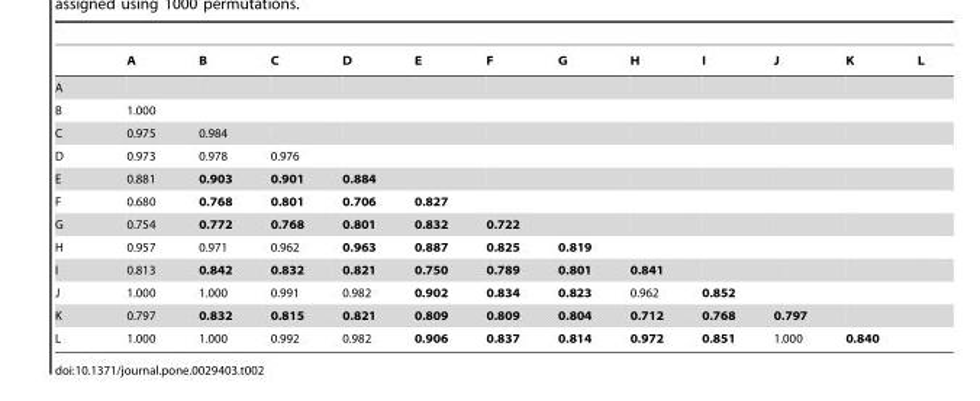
<table><thead><tr><td></td><td>A</td><td>B</td><td>C</td><td>D</td><td>E</td><td>F</td><td>G</td><td>H</td><td>I</td><td>J</td><td>K</td><td>L</td></tr></thead><tbody><tr><td colspan="13">A</td></tr><tr><td>B</td><td>1.000</td><td></td><td></td><td></td><td></td><td></td><td></td><td></td><td></td><td></td><td></td><td></td></tr><tr><td>C</td><td>0.975</td><td>0.984</td><td></td><td></td><td></td><td></td><td></td><td></td><td></td><td></td><td></td><td></td></tr><tr><td>D</td><td>0.973</td><td>0.978</td><td>0.976</td><td></td><td></td><td></td><td></td><td></td><td></td><td></td><td></td><td></td></tr><tr><td>E</td><td>0.881</td><td>0.903</td><td>0.901</td><td>0.884</td><td></td><td></td><td></td><td></td><td></td><td></td><td></td><td></td></tr><tr><td>F</td><td>0.680</td><td>0.768</td><td>0.801</td><td>0.706</td><td>0.827</td><td></td><td></td><td></td><td></td><td></td><td></td><td></td></tr><tr><td>G</td><td>0.754</td><td>0.772</td><td>0.768</td><td>0.801</td><td>0.832</td><td>0.722</td><td></td><td></td><td></td><td></td><td></td><td></td></tr><tr><td>H</td><td>0.957</td><td>0.971</td><td>0.962</td><td>0.963</td><td>0.887</td><td>0.825</td><td>0.819</td><td></td><td></td><td></td><td></td><td></td></tr><tr><td>I</td><td>0.813</td><td>0.842</td><td>0.832</td><td>0.821</td><td>0.750</td><td>0.789</td><td>0.801</td><td>0.841</td><td></td><td></td><td></td><td></td></tr><tr><td>J</td><td>1.000</td><td>1.000</td><td>0.991</td><td>0.982</td><td>0.902</td><td>0.834</td><td>0.823</td><td>0.962</td><td>0.852</td><td></td><td></td><td></td></tr><tr><td>K</td><td>0.797</td><td>0.832</td><td>0.815</td><td>0.821</td><td>0.809</td><td>0.809</td><td>0.804</td><td>0.712</td><td>0.768</td><td>0.797</td><td></td><td></td></tr><tr><td>L</td><td>1.000</td><td>1.000</td><td>0.992</td><td>0.982</td><td>0.906</td><td>0.837</td><td>0.814</td><td>0.972</td><td>0.851</td><td>1.000</td><td>0.840</td><td></td></tr></tbody></table>